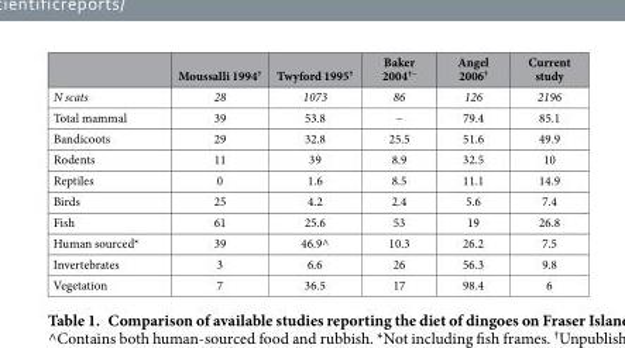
<table><thead><tr><td></td><td>Moussalli 1994†</td><td>Twyford 1995<sup>†</sup></td><td>Baker 2004<sup>†~</sup></td><td>Angel 2006<sup>†</sup></td><td>Current study</td></tr></thead><tbody><tr><td>N scats</td><td>28</td><td>1073</td><td>86</td><td>126</td><td>2196</td></tr><tr><td>Total mammal</td><td>39</td><td>53.8</td><td>–</td><td>79.4</td><td>85.1</td></tr><tr><td>Bandicoots</td><td>29</td><td>32.8</td><td>25.5</td><td>51.6</td><td>49.9</td></tr><tr><td>Rodents</td><td>11</td><td>39</td><td>8.9</td><td>32.5</td><td>10</td></tr><tr><td>Reptiles</td><td>0</td><td>1.6</td><td>8.5</td><td>11.1</td><td>14.9</td></tr><tr><td>Birds</td><td>25</td><td>4.2</td><td>2.4</td><td>5.6</td><td>7.4</td></tr><tr><td>Fish</td><td>61</td><td>25.6</td><td>53</td><td>19</td><td>26.8</td></tr><tr><td>Human sourced*</td><td>39</td><td>46.9^</td><td>10.3</td><td>26.2</td><td>7.5</td></tr><tr><td>Invertebrates</td><td>3</td><td>6.6</td><td>26</td><td>56.3</td><td>9.8</td></tr><tr><td>Vegetation</td><td>7</td><td>36.5</td><td>17</td><td>98.4</td><td>6</td></tr></tbody></table>